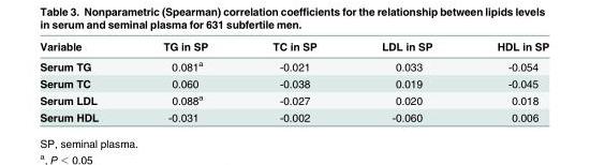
<table><thead><tr><td>Variable</td><td>TG in SP</td><td>TC in SP</td><td>LDL in SP</td><td>HDL in SP</td></tr></thead><tbody><tr><td>Serum TG</td><td>0.081<sup>a</sup></td><td>-0.021</td><td>0.033</td><td>-0.054</td></tr><tr><td>Serum TC</td><td>0.060</td><td>-0.038</td><td>0.019</td><td>-0.045</td></tr><tr><td>Serum LDL</td><td>0.088<sup>a</sup></td><td>-0.027</td><td>0.020</td><td>0.018</td></tr><tr><td>Serum HDL</td><td>-0.031</td><td>-0.002</td><td>-0.060</td><td>0.006</td></tr></tbody></table>